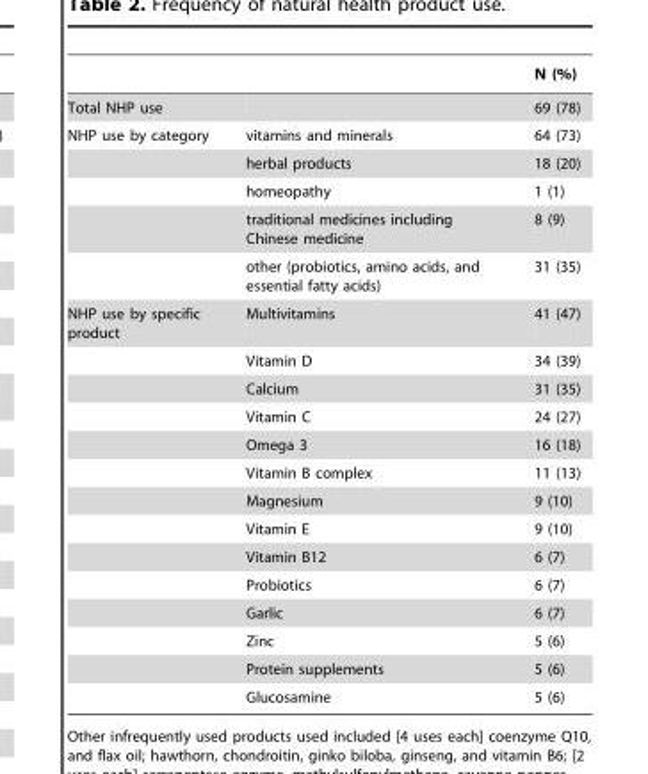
<table><thead><tr><td></td><td></td><td>N (%)</td></tr></thead><tbody><tr><td>Total NHP use</td><td></td><td>69 (78)</td></tr><tr><td rowspan="5">NHP use by category</td><td>vitamins and minerals</td><td>64 (73)</td></tr><tr><td>herbal products</td><td>18 (20)</td></tr><tr><td>homeopathy</td><td>1 (1)</td></tr><tr><td>traditional medicines including Chinese medicine</td><td>8 (9)</td></tr><tr><td>other (probiotics, amino acids, and essential fatty acids)</td><td>31 (35)</td></tr><tr><td rowspan="14">NHP use by specific product</td><td>Multivitamins</td><td>41 (47)</td></tr><tr><td>Vitamin D</td><td>34 (39)</td></tr><tr><td>Calcium</td><td>31 (35)</td></tr><tr><td>Vitamin C</td><td>24 (27)</td></tr><tr><td>Omega 3</td><td>16 (18)</td></tr><tr><td>Vitamin B complex</td><td>11 (13)</td></tr><tr><td>Magnesium</td><td>9 (10)</td></tr><tr><td>Vitamin E</td><td>9 (10)</td></tr><tr><td>Vitamin B12</td><td>6 (7)</td></tr><tr><td>Probiotics</td><td>6 (7)</td></tr><tr><td>Garlic</td><td>6 (7)</td></tr><tr><td>Zinc</td><td>5 (6)</td></tr><tr><td>Protein supplements</td><td>5 (6)</td></tr><tr><td>Glucosamine</td><td>5 (6)</td></tr></tbody></table>